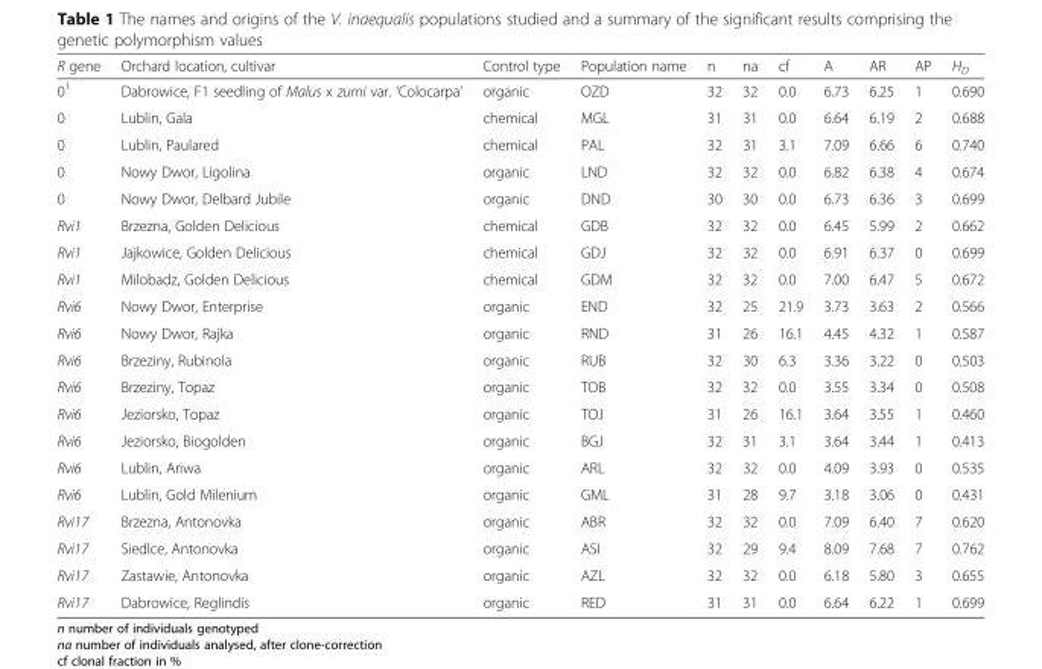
<table><thead><tr><td>R gene</td><td>Orchard location, cultivar</td><td>Control type</td><td>Population name</td><td>n</td><td>na</td><td>cf</td><td>A</td><td>AR</td><td>AP</td><td>H<sub>D</sub></td></tr></thead><tbody><tr><td>0<sup>1</sup></td><td>Dabrowice, F1 seedling of Malus x zumi var. ‘Colocarpa’</td><td>organic</td><td>OZD</td><td>32</td><td>32</td><td>0.0</td><td>6.73</td><td>6.25</td><td>1</td><td>0.690</td></tr><tr><td>0</td><td>Lublin, Gala</td><td>chemical</td><td>MGL</td><td>31</td><td>31</td><td>0.0</td><td>6.64</td><td>6.19</td><td>2</td><td>0.688</td></tr><tr><td>0</td><td>Lublin, Paulared</td><td>chemical</td><td>PAL</td><td>32</td><td>31</td><td>3.1</td><td>7.09</td><td>6.66</td><td>6</td><td>0.740</td></tr><tr><td>0</td><td>Nowy Dwor, Ligolina</td><td>organic</td><td>LND</td><td>32</td><td>32</td><td>0.0</td><td>6.82</td><td>6.38</td><td>4</td><td>0.674</td></tr><tr><td>0</td><td>Nowy Dwor, Delbard Jubile</td><td>organic</td><td>DND</td><td>30</td><td>30</td><td>0.0</td><td>6.73</td><td>6.36</td><td>3</td><td>0.699</td></tr><tr><td>Rvi1</td><td>Brzezna, Golden Delicious</td><td>chemical</td><td>GDB</td><td>32</td><td>32</td><td>0.0</td><td>6.45</td><td>5.99</td><td>2</td><td>0.662</td></tr><tr><td>Rvi1</td><td>Jajkowice, Golden Delicious</td><td>chemical</td><td>GDJ</td><td>32</td><td>32</td><td>0.0</td><td>6.91</td><td>6.37</td><td>0</td><td>0.699</td></tr><tr><td>Rvi1</td><td>Milobadz, Golden Delicious</td><td>chemical</td><td>GDM</td><td>32</td><td>32</td><td>0.0</td><td>7.00</td><td>6.47</td><td>5</td><td>0.672</td></tr><tr><td>Rvi6</td><td>Nowy Dwor, Enterprise</td><td>organic</td><td>END</td><td>32</td><td>25</td><td>21.9</td><td>3.73</td><td>3.63</td><td>2</td><td>0.566</td></tr><tr><td>Rvi6</td><td>Nowy Dwor, Rajka</td><td>organic</td><td>RND</td><td>31</td><td>26</td><td>16.1</td><td>4.45</td><td>4.32</td><td>1</td><td>0.587</td></tr><tr><td>Rvi6</td><td>Brzeziny, Rubinola</td><td>organic</td><td>RUB</td><td>32</td><td>30</td><td>6.3</td><td>3.36</td><td>3.22</td><td>0</td><td>0.503</td></tr><tr><td>Rvi6</td><td>Brzeziny, Topaz</td><td>organic</td><td>TOB</td><td>32</td><td>32</td><td>0.0</td><td>3.55</td><td>3.34</td><td>0</td><td>0.508</td></tr><tr><td>Rvi6</td><td>Jeziorsko, Topaz</td><td>organic</td><td>TOJ</td><td>31</td><td>26</td><td>16.1</td><td>3.64</td><td>3.55</td><td>1</td><td>0.460</td></tr><tr><td>Rvi6</td><td>Jeziorsko, Biogolden</td><td>organic</td><td>BGJ</td><td>32</td><td>31</td><td>3.1</td><td>3.64</td><td>3.44</td><td>1</td><td>0.413</td></tr><tr><td>Rvi6</td><td>Lublin, Ariwa</td><td>organic</td><td>ARL</td><td>32</td><td>32</td><td>0.0</td><td>4.09</td><td>3.93</td><td>0</td><td>0.535</td></tr><tr><td>Rvi6</td><td>Lublin, Gold Milenium</td><td>organic</td><td>GML</td><td>31</td><td>28</td><td>9.7</td><td>3.18</td><td>3.06</td><td>0</td><td>0.431</td></tr><tr><td>Rvi17</td><td>Brzezna, Antonovka</td><td>organic</td><td>ABR</td><td>32</td><td>32</td><td>0.0</td><td>7.09</td><td>6.40</td><td>7</td><td>0.620</td></tr><tr><td>Rvi17</td><td>Siedlce, Antonovka</td><td>organic</td><td>ASI</td><td>32</td><td>29</td><td>9.4</td><td>8.09</td><td>7.68</td><td>7</td><td>0.762</td></tr><tr><td>Rvi17</td><td>Zastawie, Antonovka</td><td>organic</td><td>AZL</td><td>32</td><td>32</td><td>0.0</td><td>6.18</td><td>5.80</td><td>3</td><td>0.655</td></tr><tr><td>Rvi17</td><td>Dabrowice, Reglindis</td><td>organic</td><td>RED</td><td>31</td><td>31</td><td>0.0</td><td>6.64</td><td>6.22</td><td>1</td><td>0.699</td></tr></tbody></table>